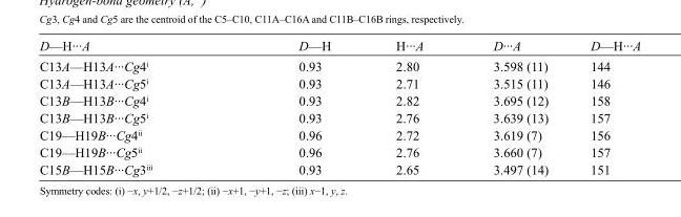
<table><tbody><tr><td>D—H···A</td><td>D—H</td><td>H···A</td><td>D···A</td><td>D—H···A</td></tr><tr><td>C13A—H13A···Cg4<sup>i</sup></td><td>0.93</td><td>2.80</td><td>3.598 (11)</td><td>144</td></tr><tr><td>C13A—H13A···Cg5<sup>i</sup></td><td>0.93</td><td>2.71</td><td>3.515 (11)</td><td>146</td></tr><tr><td>C13B—H13B···Cg4<sup>i</sup></td><td>0.93</td><td>2.82</td><td>3.695 (12)</td><td>158</td></tr><tr><td>C13B—H13B···Cg5<sup>i</sup></td><td>0.93</td><td>2.76</td><td>3.639 (13)</td><td>157</td></tr><tr><td>C19—H19B···Cg4<sup>ii</sup></td><td>0.96</td><td>2.72</td><td>3.619 (7)</td><td>156</td></tr><tr><td>C19—H19B···Cg5<sup>ii</sup></td><td>0.96</td><td>2.76</td><td>3.660 (7)</td><td>157</td></tr><tr><td>C15B—H15B···Cg3<sup>iii</sup></td><td>0.93</td><td>2.65</td><td>3.497 (14)</td><td>151</td></tr></tbody></table>